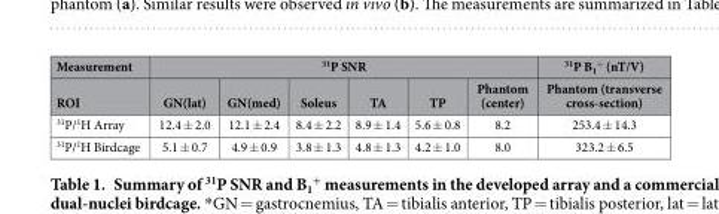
<table><thead><tr><td rowspan="2">Measurement ROI</td><td colspan="6"><sup>31</sup>P SNR</td><td rowspan="2"><sup>31</sup>P B<sub>1</sub> <sup>+</sup> (nT/V) Phantom (transverse cross-section)</td></tr><tr><td>GN(lat)</td><td>GN(med)</td><td>Soleus</td><td>TA</td><td>TP</td><td>Phantom (center)</td></tr></thead><tbody><tr><td><sup>31</sup>P/<sup>1</sup>H Array</td><td>12.4 ± 2.0</td><td>12.1 ± 2.4</td><td>8.4 ± 2.2</td><td>8.9 ± 1.4</td><td>5.6 ± 0.8</td><td>8.2</td><td>253.4 ± 14.3</td></tr><tr><td><sup>31</sup>P/<sup>1</sup>H Birdcage</td><td>5.1 ± 0.7</td><td>4.9 ± 0.9</td><td>3.8 ± 1.3</td><td>4.8 ± 1.3</td><td>4.2 ± 1.0</td><td>8.0</td><td>323.2 ± 6.5</td></tr></tbody></table>